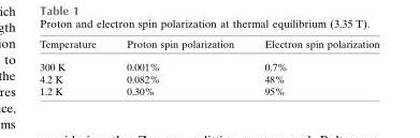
<table><thead><tr><td>Temperature</td><td>Proton spin polarization</td><td>Electron spin polarization</td></tr></thead><tbody><tr><td>300 K</td><td>0.001%</td><td>0.7%</td></tr><tr><td>4.2 K</td><td>0.082%</td><td>48%</td></tr><tr><td>1.2 K</td><td>0.30%</td><td>95%</td></tr></tbody></table>